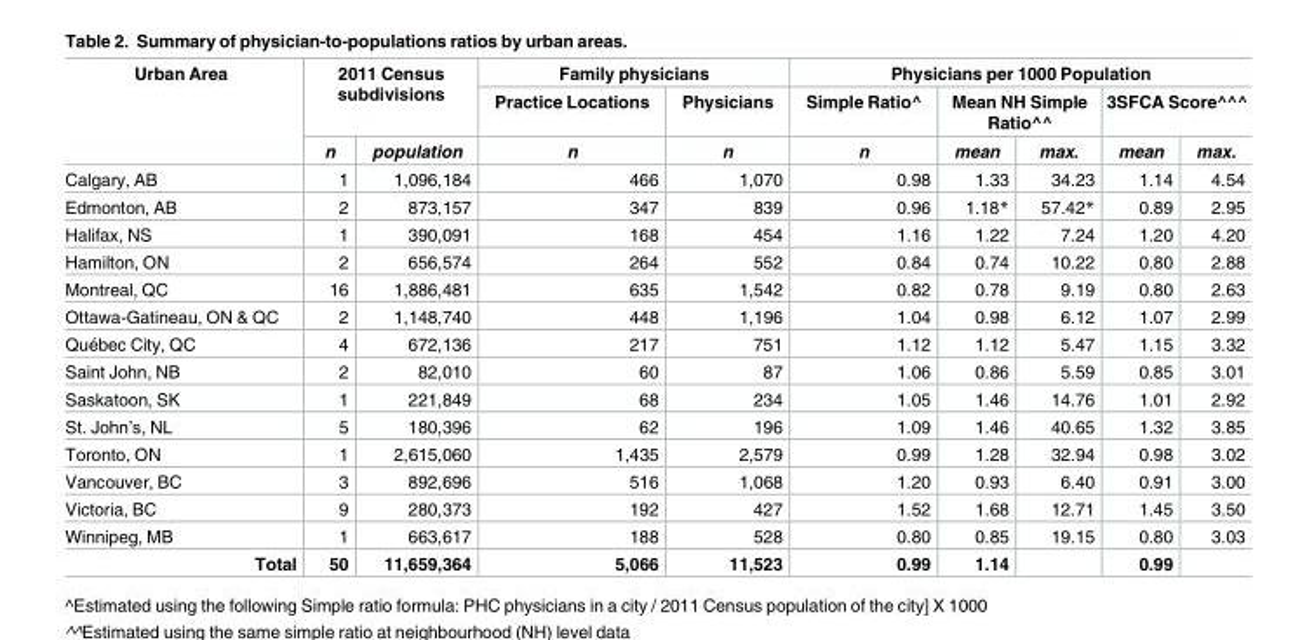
<table><thead><tr><td rowspan="3">Urban Area</td><td rowspan="2" colspan="2">2011 Census subdivisions</td><td colspan="2">Family physicians</td><td colspan="5">Physicians per 1000 Population</td></tr><tr><td rowspan="2">Practice Locations n</td><td rowspan="2">Physicians n</td><td rowspan="2">Simple Ratio^ n</td><td colspan="2">Mean NH Simple Ratio^^</td><td colspan="2">3SFCA Score^^^</td></tr><tr><td>n</td><td>population</td><td>mean</td><td>max.</td><td>mean</td><td>max.</td></tr></thead><tbody><tr><td>Calgary, AB</td><td>1</td><td>1,096,184</td><td>466</td><td>1,070</td><td>0.98</td><td>1.33</td><td>34.23</td><td>1.14</td><td>4.54</td></tr><tr><td>Edmonton, AB</td><td>2</td><td>873,157</td><td>347</td><td>839</td><td>0.96</td><td>1.18*</td><td>57.42*</td><td>0.89</td><td>2.95</td></tr><tr><td>Halifax, NS</td><td>1</td><td>390,091</td><td>168</td><td>454</td><td>1.16</td><td>1.22</td><td>7.24</td><td>1.20</td><td>4.20</td></tr><tr><td>Hamilton, ON</td><td>2</td><td>656,574</td><td>264</td><td>552</td><td>0.84</td><td>0.74</td><td>10.22</td><td>0.80</td><td>2.88</td></tr><tr><td>Montreal, QC</td><td>16</td><td>1,886,481</td><td>635</td><td>1,542</td><td>0.82</td><td>0.78</td><td>9.19</td><td>0.80</td><td>2.63</td></tr><tr><td>Ottawa-Gatineau, ON &amp; QC</td><td>2</td><td>1,148,740</td><td>448</td><td>1,196</td><td>1.04</td><td>0.98</td><td>6.12</td><td>1.07</td><td>2.99</td></tr><tr><td>Que´bec City, QC</td><td>4</td><td>672,136</td><td>217</td><td>751</td><td>1.12</td><td>1.12</td><td>5.47</td><td>1.15</td><td>3.32</td></tr><tr><td>Saint John, NB</td><td>2</td><td>82,010</td><td>60</td><td>87</td><td>1.06</td><td>0.86</td><td>5.59</td><td>0.85</td><td>3.01</td></tr><tr><td>Saskatoon, SK</td><td>1</td><td>221,849</td><td>68</td><td>234</td><td>1.05</td><td>1.46</td><td>14.76</td><td>1.01</td><td>2.92</td></tr><tr><td>St. John’s, NL</td><td>5</td><td>180,396</td><td>62</td><td>196</td><td>1.09</td><td>1.46</td><td>40.65</td><td>1.32</td><td>3.85</td></tr><tr><td>Toronto, ON</td><td>1</td><td>2,615,060</td><td>1,435</td><td>2,579</td><td>0.99</td><td>1.28</td><td>32.94</td><td>0.98</td><td>3.02</td></tr><tr><td>Vancouver, BC</td><td>3</td><td>892,696</td><td>516</td><td>1,068</td><td>1.20</td><td>0.93</td><td>6.40</td><td>0.91</td><td>3.00</td></tr><tr><td>Victoria, BC</td><td>9</td><td>280,373</td><td>192</td><td>427</td><td>1.52</td><td>1.68</td><td>12.71</td><td>1.45</td><td>3.50</td></tr><tr><td>Winnipeg, MB</td><td>1</td><td>663,617</td><td>188</td><td>528</td><td>0.80</td><td>0.85</td><td>19.15</td><td>0.80</td><td>3.03</td></tr><tr><td>Total</td><td>50</td><td>11,659,364</td><td>5,066</td><td>11,523</td><td>0.99</td><td>1.14</td><td></td><td>0.99</td><td></td></tr></tbody></table>